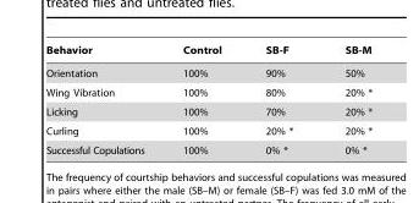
<table><thead><tr><td>Behavior</td><td>Control</td><td>SB-F</td><td>SB-M</td></tr></thead><tbody><tr><td>Orientation</td><td>100%</td><td>90%</td><td>50%</td></tr><tr><td>Wing Vibration</td><td>100%</td><td>80%</td><td>20% *</td></tr><tr><td>Licking</td><td>100%</td><td>70%</td><td>20% *</td></tr><tr><td>Curling</td><td>100%</td><td>20% *</td><td>20% *</td></tr><tr><td>Successful Copulations</td><td>100%</td><td>0% *</td><td>0% *</td></tr></tbody></table>